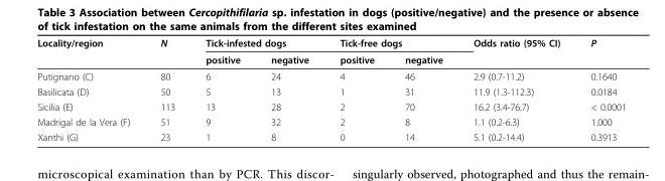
<table><thead><tr><td rowspan="2">Locality/region</td><td rowspan="2">N</td><td colspan="2">Tick-infested dogs</td><td colspan="2">Tick-free dogs</td><td rowspan="2">Odds ratio (95% CI)</td><td rowspan="2">P</td></tr><tr><td>positive</td><td>negative</td><td>positive</td><td>negative</td></tr></thead><tbody><tr><td>Putignano (C)</td><td>80</td><td>6</td><td>24</td><td>4</td><td>46</td><td>2.9 (0.7-11.2)</td><td>0.1640</td></tr><tr><td>Basilicata (D)</td><td>50</td><td>5</td><td>13</td><td>1</td><td>31</td><td>11.9 (1.3-112.3)</td><td>0.0184</td></tr><tr><td>Sicilia (E)</td><td>113</td><td>13</td><td>28</td><td>2</td><td>70</td><td>16.2 (3.4-76.7)</td><td>&lt; 0.0001</td></tr><tr><td>Madrigal de la Vera (F)</td><td>51</td><td>9</td><td>32</td><td>2</td><td>8</td><td>1.1 (0.2-6.3)</td><td>1.000</td></tr><tr><td>Xanthi (G)</td><td>23</td><td>1</td><td>8</td><td>0</td><td>14</td><td>5.1 (0.2-14.4)</td><td>0.3913</td></tr></tbody></table>